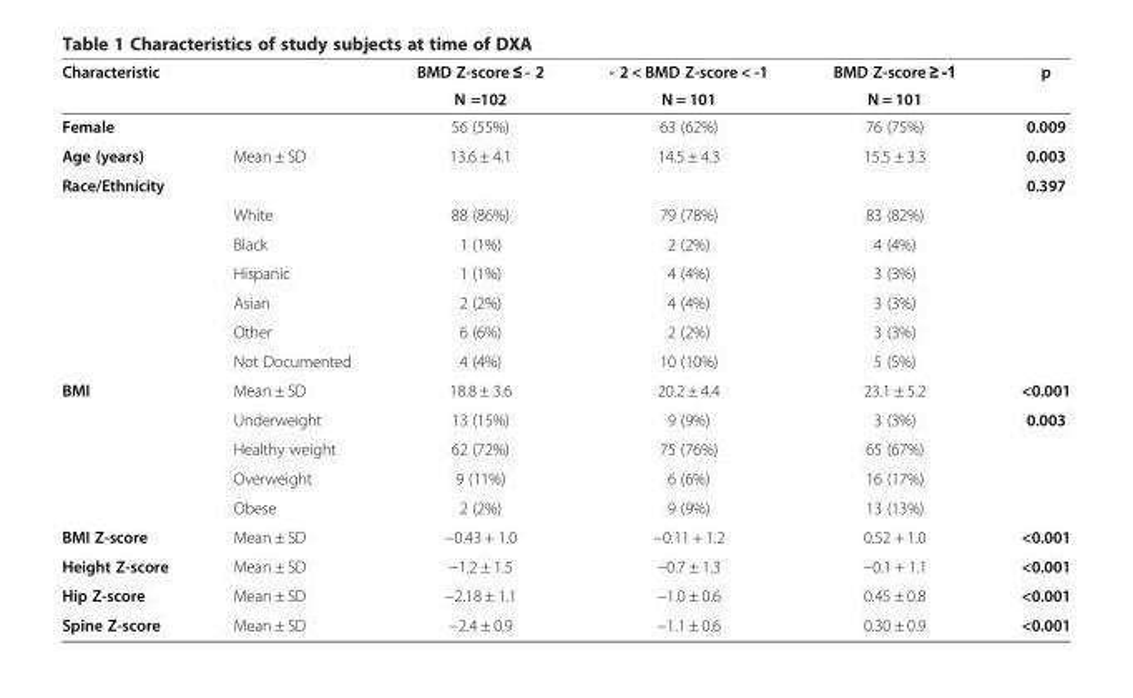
<table><thead><tr><td colspan="2">Characteristic</td><td rowspan="2">BMD Z-score ≤ - 2 N =102</td><td rowspan="2">- 2 &lt; BMD Z-score &lt; -1 N = 101</td><td rowspan="2">BMD Z-score ≥ -1 N = 101</td><td rowspan="2">p</td></tr><tr><td></td><td></td></tr></thead><tbody><tr><td colspan="2">Female</td><td>56 (55%)</td><td>63 (62%)</td><td>76 (75%)</td><td>0.009</td></tr><tr><td>Age (years)</td><td>Mean ± SD</td><td>13.6 ± 4.1</td><td>14.5 ± 4.3</td><td>15.5 ± 3.3</td><td>0.003</td></tr><tr><td colspan="5">Race/Ethnicity</td><td>0.397</td></tr><tr><td></td><td>White</td><td>88 (86%)</td><td>79 (78%)</td><td>83 (82%)</td><td></td></tr><tr><td></td><td>Black</td><td>1 (1%)</td><td>2 (2%)</td><td>4 (4%)</td><td></td></tr><tr><td></td><td>Hispanic</td><td>1 (1%)</td><td>4 (4%)</td><td>3 (3%)</td><td></td></tr><tr><td></td><td>Asian</td><td>2 (2%)</td><td>4 (4%)</td><td>3 (3%)</td><td></td></tr><tr><td></td><td>Other</td><td>6 (6%)</td><td>2 (2%)</td><td>3 (3%)</td><td></td></tr><tr><td></td><td>Not Documented</td><td>4 (4%)</td><td>10 (10%)</td><td>5 (5%)</td><td></td></tr><tr><td rowspan="5">BMI</td><td>Mean ± SD</td><td>18.8 ± 3.6</td><td>20.2 ± 4.4</td><td>23.1 ± 5.2</td><td>&lt;0.001</td></tr><tr><td>Underweight</td><td>13 (15%)</td><td>9 (9%)</td><td>3 (3%)</td><td>0.003</td></tr><tr><td>Healthy weight</td><td>62 (72%)</td><td>75 (76%)</td><td>65 (67%)</td><td></td></tr><tr><td>Overweight</td><td>9 (11%)</td><td>6 (6%)</td><td>16 (17%)</td><td></td></tr><tr><td>Obese</td><td>2 (2%)</td><td>9 (9%)</td><td>13 (13%)</td><td></td></tr><tr><td>BMI Z-score</td><td>Mean ± SD</td><td>−0.43 + 1.0</td><td>−0.11 + 1.2</td><td>0.52 + 1.0</td><td>&lt;0.001</td></tr><tr><td>Height Z-score</td><td>Mean ± SD</td><td>−1.2 ± 1.5</td><td>−0.7 ± 1.3</td><td>−0.1 + 1.1</td><td>&lt;0.001</td></tr><tr><td>Hip Z-score</td><td>Mean ± SD</td><td>−2.18 ± 1.1</td><td>−1.0 ± 0.6</td><td>0.45 ± 0.8</td><td>&lt;0.001</td></tr><tr><td>Spine Z-score</td><td>Mean ± SD</td><td>−2.4 ± 0.9</td><td>−1.1 ± 0.6</td><td>0.30 ± 0.9</td><td>&lt;0.001</td></tr></tbody></table>